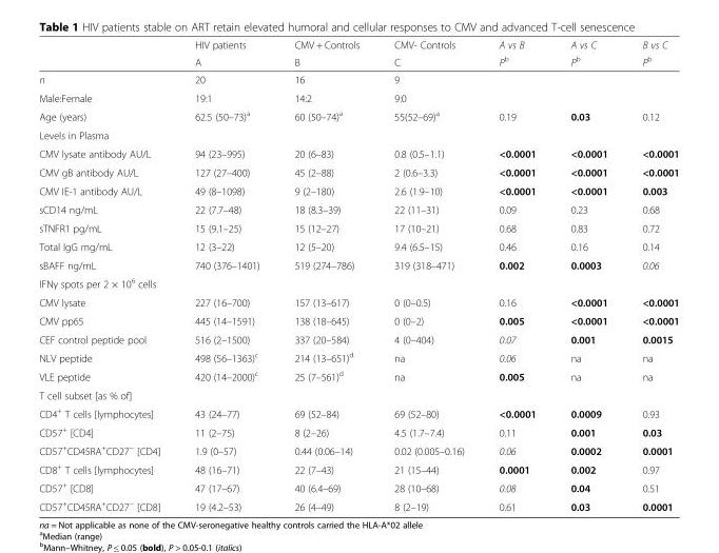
<table><thead><tr><td rowspan="2"></td><td rowspan="2">HIV patients A</td><td rowspan="2">CMV + Controls B</td><td rowspan="2">CMV- Controls C</td><td rowspan="2">A vs B P<sup>b</sup></td><td rowspan="2">A vs C P<sup>b</sup></td><td rowspan="2">B vs C P<sup>b</sup></td></tr><tr></tr></thead><tbody><tr><td>n</td><td>20</td><td>16</td><td>9</td><td></td><td></td><td></td></tr><tr><td>Male:Female</td><td>19:1</td><td>14:2</td><td>9:0</td><td></td><td></td><td></td></tr><tr><td>Age (years)</td><td>62.5 (50–73)<sup>a</sup></td><td>60 (50–74)<sup>a</sup></td><td>55(52–69)<sup>a</sup></td><td>0.19</td><td>0.03</td><td>0.12</td></tr><tr><td colspan="7">Levels in Plasma</td></tr><tr><td>CMV lysate antibody AU/L</td><td>94 (23–995)</td><td>20 (6–83)</td><td>0.8 (0.5–1.1)</td><td>&lt;0.0001</td><td>&lt;0.0001</td><td>&lt;0.0001</td></tr><tr><td>CMV gB antibody AU/L</td><td>127 (27–400)</td><td>45 (2–88)</td><td>2 (0.6–3.3)</td><td>&lt;0.0001</td><td>&lt;0.0001</td><td>&lt;0.0001</td></tr><tr><td>CMV IE-1 antibody AU/L</td><td>49 (8–1098)</td><td>9 (2–180)</td><td>2.6 (1.9–10)</td><td>&lt;0.0001</td><td>&lt;0.0001</td><td>0.003</td></tr><tr><td>sCD14 ng/mL</td><td>22 (7.7–48)</td><td>18 (8.3–39)</td><td>22 (11–31)</td><td>0.09</td><td>0.23</td><td>0.68</td></tr><tr><td>sTNFR1 pg/mL</td><td>15 (9.1–25)</td><td>15 (12–27)</td><td>17 (10–21)</td><td>0.68</td><td>0.83</td><td>0.72</td></tr><tr><td>Total IgG mg/mL</td><td>12 (3–22)</td><td>12 (5–20)</td><td>9.4 (6.5–15)</td><td>0.46</td><td>0.16</td><td>0.14</td></tr><tr><td>sBAFF ng/mL</td><td>740 (376–1401)</td><td>519 (274–786)</td><td>319 (318–471)</td><td>0.002</td><td>0.0003</td><td>0.06</td></tr><tr><td colspan="7">IFNγ spots per 2 × 10<sup>6</sup> cells</td></tr><tr><td>CMV lysate</td><td>227 (16–700)</td><td>157 (13–617)</td><td>0 (0–0.5)</td><td>0.16</td><td>&lt;0.0001</td><td>&lt;0.0001</td></tr><tr><td>CMV pp65</td><td>445 (14–1591)</td><td>138 (18–645)</td><td>0 (0–2)</td><td>0.005</td><td>&lt;0.0001</td><td>&lt;0.0001</td></tr><tr><td>CEF control peptide pool</td><td>516 (2–1500)</td><td>337 (20–584)</td><td>4 (0–404)</td><td>0.07</td><td>0.001</td><td>0.0015</td></tr><tr><td>NLV peptide</td><td>498 (56–1363)<sup>c</sup></td><td>214 (13–651)<sup>d</sup></td><td>na</td><td>0.06</td><td>na</td><td>na</td></tr><tr><td>VLE peptide</td><td>420 (14–2000)<sup>c</sup></td><td>25 (7–561)<sup>d</sup></td><td>na</td><td>0.005</td><td>na</td><td>na</td></tr><tr><td colspan="7">T cell subset [as % of]</td></tr><tr><td>CD4<sup>+</sup> T cells [lymphocytes]</td><td>43 (24–77)</td><td>69 (52–84)</td><td>69 (52–80)</td><td>&lt;0.0001</td><td>0.0009</td><td>0.93</td></tr><tr><td>CD57<sup>+</sup> [CD4]</td><td>11 (2–75)</td><td>8 (2–26)</td><td>4.5 (1.7–7.4)</td><td>0.11</td><td>0.001</td><td>0.03</td></tr><tr><td>CD57<sup>+</sup>CD45RA<sup>+</sup>CD27<sup>−</sup> [CD4]</td><td>1.9 (0–57)</td><td>0.44 (0.06–14)</td><td>0.02 (0.005–0.16)</td><td>0.06</td><td>0.0002</td><td>0.0001</td></tr><tr><td>CD8<sup>+</sup> T cells [lymphocytes]</td><td>48 (16–71)</td><td>22 (7–43)</td><td>21 (15–44)</td><td>0.0001</td><td>0.002</td><td>0.97</td></tr><tr><td>CD57<sup>+</sup> [CD8]</td><td>47 (17–67)</td><td>40 (6.4–69)</td><td>28 (10–68)</td><td>0.08</td><td>0.04</td><td>0.51</td></tr><tr><td>CD57<sup>+</sup>CD45RA<sup>+</sup>CD27<sup>−</sup> [CD8]</td><td>19 (4.2–53)</td><td>26 (4–49)</td><td>8 (2–19)</td><td>0.61</td><td>0.03</td><td>0.0001</td></tr></tbody></table>